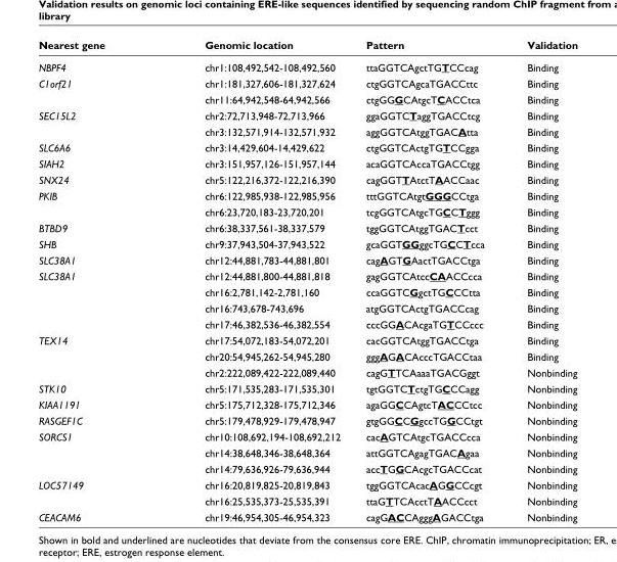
<table><thead><tr><td>Nearest gene</td><td>Genomic location</td><td>Pattern</td><td>Validation</td></tr></thead><tbody><tr><td>NBPF4</td><td>chr1:108,492,542-108,492,560</td><td>ttaGGTCAgctTGTCCcag</td><td>Binding</td></tr><tr><td rowspan="2">C1orf21</td><td>chr1:181,327,606-181,327,624</td><td>ctgGGTCAgcaTGACCttc</td><td>Binding</td></tr><tr><td>chr11:64,942,548-64,942,566</td><td>ctgGGGCAtgcTCACCtca</td><td>Binding</td></tr><tr><td rowspan="2">SEC15L2</td><td>chr2:72,713,948-72,713,966</td><td>ggaGGTCTaggTGACCtcg</td><td>Binding</td></tr><tr><td>chr3:132,571,914-132,571,932</td><td>aggGGTCAtggTGACAtta</td><td>Binding</td></tr><tr><td>SLC6A6</td><td>chr3:14,429,604-14,429,622</td><td>ctgGGTCActgTGTCCgga</td><td>Binding</td></tr><tr><td>SIAH2</td><td>chr3:151,957,126-151,957,144</td><td>acaGGTCAccaTGACCtgg</td><td>Binding</td></tr><tr><td>SNX24</td><td>chr5:122,216,372-122,216,390</td><td>cagGGTTAtctTAACCaac</td><td>Binding</td></tr><tr><td rowspan="2">PKIB</td><td>chr6:122,985,938-122,985,956</td><td>tttGGTCAtgtGGGCCtga</td><td>Binding</td></tr><tr><td>chr6:23,720,183-23,720,201</td><td>tcgGGTCAtgcTGCCTggg</td><td>Binding</td></tr><tr><td>BTBD9</td><td>chr6:38,337,561-38,337,579</td><td>tggGGTCAtggTGACTcct</td><td>Binding</td></tr><tr><td>SHB</td><td>chr9:37,943,504-37,943,522</td><td>gcaGGTGGggcTGCCTcca</td><td>Binding</td></tr><tr><td>SLC38A1</td><td>chr12:44,881,783-44,881,801</td><td>cagAGTGAactTGACCtga</td><td>Binding</td></tr><tr><td rowspan="4">SLC38A1</td><td>chr12:44,881,800-44,881,818</td><td>gagGGTCAtccCAACCcca</td><td>Binding</td></tr><tr><td>chr16:2,781,142-2,781,160</td><td>ccaGGTCGgctTGCCCtta</td><td>Binding</td></tr><tr><td>chr16:743,678-743,696</td><td>atgGGTCActgTGACCcag</td><td>Binding</td></tr><tr><td>chr17:46,382,536-46,382,554</td><td>cccGGACAcgaTGTCCccc</td><td>Binding</td></tr><tr><td rowspan="3">TEX14</td><td>chr17:54,072,183-54,072,201</td><td>cacGGTCAtggTGACCtga</td><td>Binding</td></tr><tr><td>chr20:54,945,262-54,945,280</td><td>gggAGACAcccTGACCtaa</td><td>Binding</td></tr><tr><td>chr2:222,089,422-222,089,440</td><td>cagGTTCAaaaTGACGggt</td><td>Nonbinding</td></tr><tr><td>STK10</td><td>chr5:171,535,283-171,535,301</td><td>tgtGGTCTctgTGCCCagg</td><td>Nonbinding</td></tr><tr><td>KIAA1191</td><td>chr5:175,712,328-175,712,346</td><td>agaGGCCAgtcTACCCtcc</td><td>Nonbinding</td></tr><tr><td>RASGEF1C</td><td>chr5:179,478,929-179,478,947</td><td>gtgGGCCGgccTGGCCtgt</td><td>Nonbinding</td></tr><tr><td rowspan="3">SORCS1</td><td>chr10:108,692,194-108,692,212</td><td>cacAGTCAtgcTGACCcca</td><td>Nonbinding</td></tr><tr><td>chr14:38,648,346-38,648,364</td><td>attGGTCAgagTGACAgaa</td><td>Nonbinding</td></tr><tr><td>chr14:79,636,926-79,636,944</td><td>accTGGCAcgcTGACCcat</td><td>Nonbinding</td></tr><tr><td rowspan="2">LOC57149</td><td>chr16:20,819,825-20,819,843</td><td>tggGGTCAcacAGGCCcgt</td><td>Nonbinding</td></tr><tr><td>chr16:25,535,373-25,535,391</td><td>ttaGTTCAcctTAACCcct</td><td>Nonbinding</td></tr><tr><td>CEACAM6</td><td>chr19:46,954,305-46,954,323</td><td>cagGACCAgggAGACCtga</td><td>Nonbinding</td></tr></tbody></table>